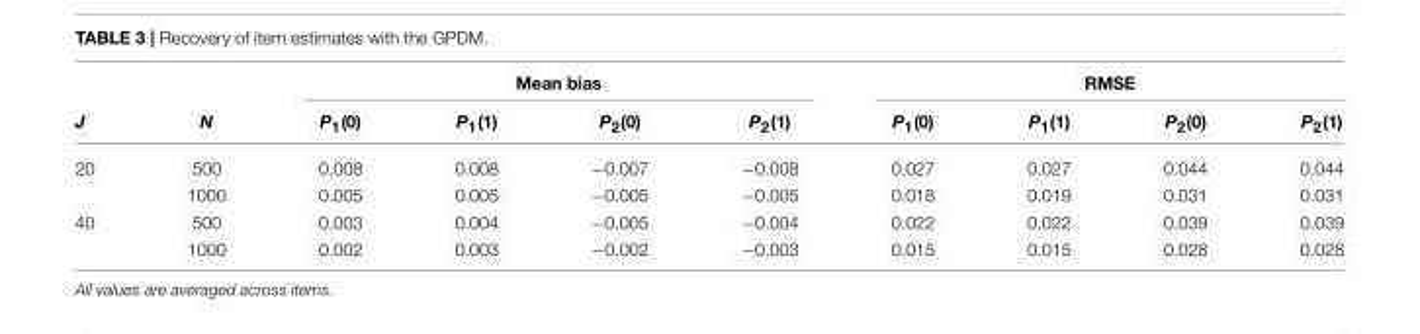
<table><thead><tr><td rowspan="2">J</td><td rowspan="2">N</td><td colspan="4">Mean bias</td><td colspan="4">RMSE</td></tr><tr><td>P<sub>1</sub>(0)</td><td>P<sub>1</sub>(1)</td><td>P<sub>2</sub>(0)</td><td>P<sub>2</sub>(1)</td><td>P<sub>1</sub>(0)</td><td>P<sub>1</sub>(1)</td><td>P<sub>2</sub>(0)</td><td>P<sub>2</sub>(1)</td></tr></thead><tbody><tr><td rowspan="2">20</td><td>500</td><td>0.008</td><td>0.008</td><td>−0.007</td><td>−0.008</td><td>0.027</td><td>0.027</td><td>0.044</td><td>0.044</td></tr><tr><td>1000</td><td>0.005</td><td>0.005</td><td>−0.005</td><td>−0.005</td><td>0.018</td><td>0.019</td><td>0.031</td><td>0.031</td></tr><tr><td rowspan="2">40</td><td>500</td><td>0.003</td><td>0.004</td><td>−0.005</td><td>−0.004</td><td>0.022</td><td>0.022</td><td>0.039</td><td>0.039</td></tr><tr><td>1000</td><td>0.002</td><td>0.003</td><td>−0.002</td><td>−0.003</td><td>0.015</td><td>0.015</td><td>0.028</td><td>0.028</td></tr></tbody></table>